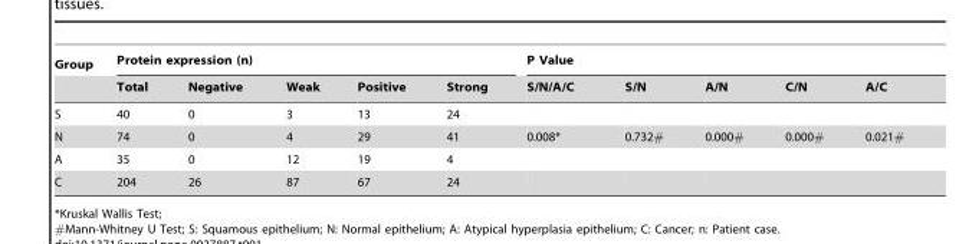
<table><thead><tr><td rowspan="2">Group</td><td colspan="5">Protein expression (n)</td><td colspan="5">P Value</td></tr><tr><td>Total</td><td>Negative</td><td>Weak</td><td>Positive</td><td>Strong</td><td>S/N/A/C</td><td>S/N</td><td>A/N</td><td>C/N</td><td>A/C</td></tr></thead><tbody><tr><td>S</td><td>40</td><td>0</td><td>3</td><td>13</td><td>24</td><td></td><td></td><td></td><td></td><td></td></tr><tr><td>N</td><td>74</td><td>0</td><td>4</td><td>29</td><td>41</td><td>0.008*</td><td>0.732#</td><td>0.000#</td><td>0.000#</td><td>0.021#</td></tr><tr><td>A</td><td>35</td><td>0</td><td>12</td><td>19</td><td>4</td><td></td><td></td><td></td><td></td><td></td></tr><tr><td>C</td><td>204</td><td>26</td><td>87</td><td>67</td><td>24</td><td></td><td></td><td></td><td></td><td></td></tr></tbody></table>